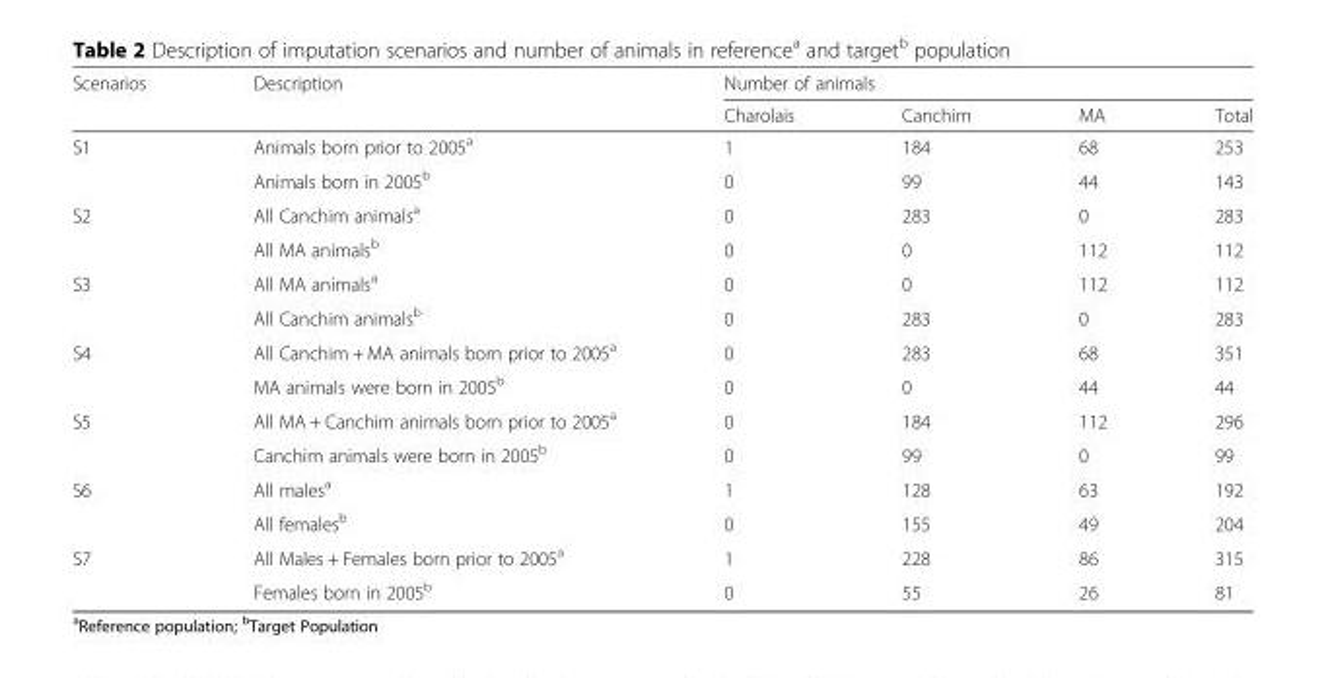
<table><thead><tr><td rowspan="2">Scenarios</td><td rowspan="2">Description</td><td colspan="4">Number of animals</td></tr><tr><td>Charolais</td><td>Canchim</td><td>MA</td><td>Total</td></tr></thead><tbody><tr><td rowspan="2">S1</td><td>Animals born prior to 2005<sup>a</sup></td><td>1</td><td>184</td><td>68</td><td>253</td></tr><tr><td>Animals born in 2005<sup>b</sup></td><td>0</td><td>99</td><td>44</td><td>143</td></tr><tr><td rowspan="2">S2</td><td>All Canchim animals<sup>a</sup></td><td>0</td><td>283</td><td>0</td><td>283</td></tr><tr><td>All MA animals<sup>b</sup></td><td>0</td><td>0</td><td>112</td><td>112</td></tr><tr><td rowspan="2">S3</td><td>All MA animals<sup>a</sup></td><td>0</td><td>0</td><td>112</td><td>112</td></tr><tr><td>All Canchim animals<sup>b</sup></td><td>0</td><td>283</td><td>0</td><td>283</td></tr><tr><td rowspan="2">S4</td><td>All Canchim + MA animals born prior to 2005<sup>a</sup></td><td>0</td><td>283</td><td>68</td><td>351</td></tr><tr><td>MA animals were born in 2005<sup>b</sup></td><td>0</td><td>0</td><td>44</td><td>44</td></tr><tr><td rowspan="2">S5</td><td>All MA + Canchim animals born prior to 2005<sup>a</sup></td><td>0</td><td>184</td><td>112</td><td>296</td></tr><tr><td>Canchim animals were born in 2005<sup>b</sup></td><td>0</td><td>99</td><td>0</td><td>99</td></tr><tr><td rowspan="2">S6</td><td>All males<sup>a</sup></td><td>1</td><td>128</td><td>63</td><td>192</td></tr><tr><td>All females<sup>b</sup></td><td>0</td><td>155</td><td>49</td><td>204</td></tr><tr><td rowspan="2">S7</td><td>All Males + Females born prior to 2005<sup>a</sup></td><td>1</td><td>228</td><td>86</td><td>315</td></tr><tr><td>Females born in 2005<sup>b</sup></td><td>0</td><td>55</td><td>26</td><td>81</td></tr></tbody></table>